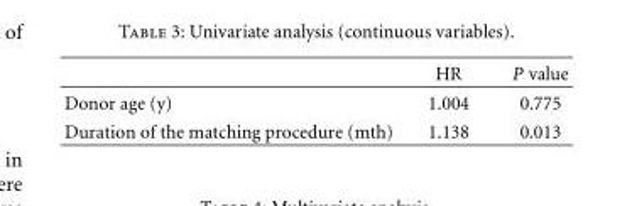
<table><thead><tr><td></td><td>HR</td><td>P value</td></tr></thead><tbody><tr><td>Donor age (y)</td><td>1.004</td><td>0.775</td></tr><tr><td>Duration of the matching procedure (mth)</td><td>1.138</td><td>0.013</td></tr></tbody></table>